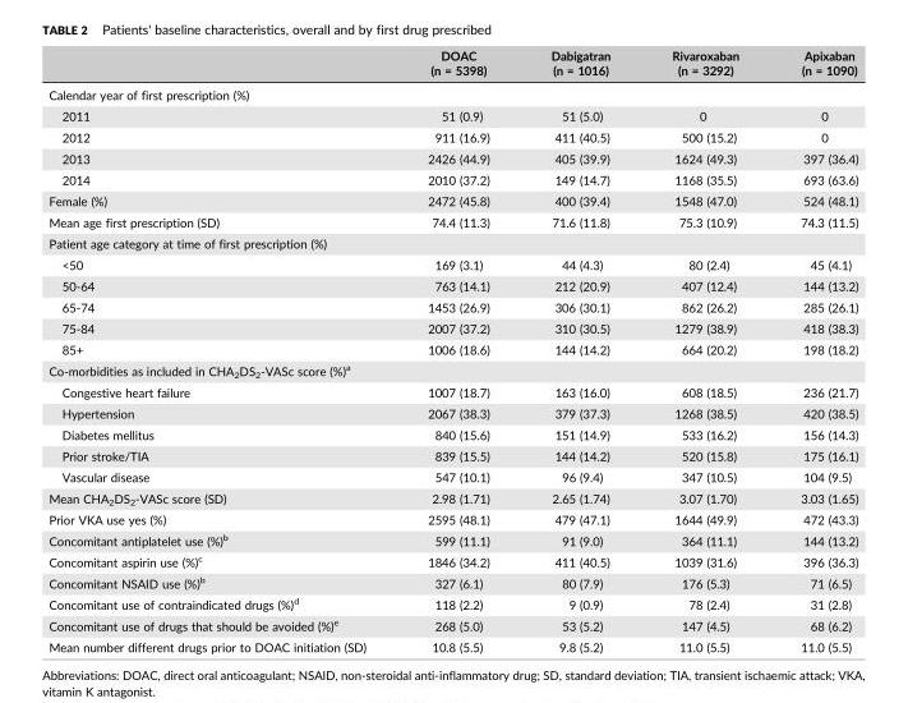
<table><thead><tr><td></td><td>DOAC (n = 5398)</td><td>Dabigatran (n = 1016)</td><td>Rivaroxaban (n = 3292)</td><td>Apixaban (n = 1090)</td></tr></thead><tbody><tr><td colspan="5">Calendar year of first prescription (%)</td></tr><tr><td>2011</td><td>51 (0.9)</td><td>51 (5.0)</td><td>0</td><td>0</td></tr><tr><td>2012</td><td>911 (16.9)</td><td>411 (40.5)</td><td>500 (15.2)</td><td>0</td></tr><tr><td>2013</td><td>2426 (44.9)</td><td>405 (39.9)</td><td>1624 (49.3)</td><td>397 (36.4)</td></tr><tr><td>2014</td><td>2010 (37.2)</td><td>149 (14.7)</td><td>1168 (35.5)</td><td>693 (63.6)</td></tr><tr><td>Female (%)</td><td>2472 (45.8)</td><td>400 (39.4)</td><td>1548 (47.0)</td><td>524 (48.1)</td></tr><tr><td>Mean age first prescription (SD)</td><td>74.4 (11.3)</td><td>71.6 (11.8)</td><td>75.3 (10.9)</td><td>74.3 (11.5)</td></tr><tr><td colspan="5">Patient age category at time of first prescription (%)</td></tr><tr><td>&lt;50</td><td>169 (3.1)</td><td>44 (4.3)</td><td>80 (2.4)</td><td>45 (4.1)</td></tr><tr><td>50‐64</td><td>763 (14.1)</td><td>212 (20.9)</td><td>407 (12.4)</td><td>144 (13.2)</td></tr><tr><td>65‐74</td><td>1453 (26.9)</td><td>306 (30.1)</td><td>862 (26.2)</td><td>285 (26.1)</td></tr><tr><td>75‐84</td><td>2007 (37.2)</td><td>310 (30.5)</td><td>1279 (38.9)</td><td>418 (38.3)</td></tr><tr><td>85+</td><td>1006 (18.6)</td><td>144 (14.2)</td><td>664 (20.2)</td><td>198 (18.2)</td></tr><tr><td colspan="5">Co‐morbidities as included in CHA<sub>2</sub>DS<sub>2</sub>‐VASc score (%)<sup>a</sup></td></tr><tr><td>Congestive heart failure</td><td>1007 (18.7)</td><td>163 (16.0)</td><td>608 (18.5)</td><td>236 (21.7)</td></tr><tr><td>Hypertension</td><td>2067 (38.3)</td><td>379 (37.3)</td><td>1268 (38.5)</td><td>420 (38.5)</td></tr><tr><td>Diabetes mellitus</td><td>840 (15.6)</td><td>151 (14.9)</td><td>533 (16.2)</td><td>156 (14.3)</td></tr><tr><td>Prior stroke/TIA</td><td>839 (15.5)</td><td>144 (14.2)</td><td>520 (15.8)</td><td>175 (16.1)</td></tr><tr><td>Vascular disease</td><td>547 (10.1)</td><td>96 (9.4)</td><td>347 (10.5)</td><td>104 (9.5)</td></tr><tr><td>Mean CHA<sub>2</sub>DS<sub>2</sub>‐VASc score (SD)</td><td>2.98 (1.71)</td><td>2.65 (1.74)</td><td>3.07 (1.70)</td><td>3.03 (1.65)</td></tr><tr><td>Prior VKA use yes (%)</td><td>2595 (48.1)</td><td>479 (47.1)</td><td>1644 (49.9)</td><td>472 (43.3)</td></tr><tr><td>Concomitant antiplatelet use (%)<sup>b</sup></td><td>599 (11.1)</td><td>91 (9.0)</td><td>364 (11.1)</td><td>144 (13.2)</td></tr><tr><td>Concomitant aspirin use (%)<sup>c</sup></td><td>1846 (34.2)</td><td>411 (40.5)</td><td>1039 (31.6)</td><td>396 (36.3)</td></tr><tr><td>Concomitant NSAID use (%)<sup>b</sup></td><td>327 (6.1)</td><td>80 (7.9)</td><td>176 (5.3)</td><td>71 (6.5)</td></tr><tr><td>Concomitant use of contraindicated drugs (%)<sup>d</sup></td><td>118 (2.2)</td><td>9 (0.9)</td><td>78 (2.4)</td><td>31 (2.8)</td></tr><tr><td>Concomitant use of drugs that should be avoided (%)<sup>e</sup></td><td>268 (5.0)</td><td>53 (5.2)</td><td>147 (4.5)</td><td>68 (6.2)</td></tr><tr><td>Mean number different drugs prior to DOAC initiation (SD)</td><td>10.8 (5.5)</td><td>9.8 (5.2)</td><td>11.0 (5.5)</td><td>11.0 (5.5)</td></tr></tbody></table>